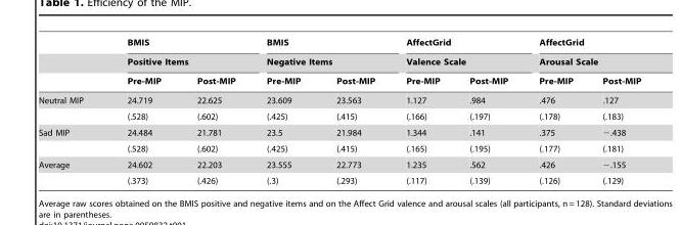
<table><thead><tr><td rowspan="3"></td><td rowspan="2" colspan="2">BMIS Positive Items</td><td rowspan="2" colspan="2">BMIS Negative Items</td><td rowspan="2" colspan="2">AffectGrid Valence Scale</td><td rowspan="2" colspan="2">AffectGrid Arousal Scale</td></tr><tr></tr><tr><td>Pre-MIP</td><td>Post-MIP</td><td>Pre-MIP</td><td>Post-MIP</td><td>Pre-MIP</td><td>Post-MIP</td><td>Pre-MIP</td><td>Post-MIP</td></tr></thead><tbody><tr><td rowspan="2">Neutral MIP</td><td>24.719</td><td>22.625</td><td>23.609</td><td>23.563</td><td>1.127</td><td>.984</td><td>.476</td><td>.127</td></tr><tr><td>(.528)</td><td>(.602)</td><td>(.425)</td><td>(.415)</td><td>(.166)</td><td>(.197)</td><td>(.178)</td><td>(.183)</td></tr><tr><td rowspan="2">Sad MIP</td><td>24.484</td><td>21.781</td><td>23.5</td><td>21.984</td><td>1.344</td><td>.141</td><td>.375</td><td>−.438</td></tr><tr><td>(.528)</td><td>(.602)</td><td>(.425)</td><td>(.415)</td><td>(.165)</td><td>(.195)</td><td>(.177)</td><td>(.181)</td></tr><tr><td rowspan="2">Average</td><td>24.602</td><td>22.203</td><td>23.555</td><td>22.773</td><td>1.235</td><td>.562</td><td>.426</td><td>−.155</td></tr><tr><td>(.373)</td><td>(.426)</td><td>(.3)</td><td>(.293)</td><td>(.117)</td><td>(.139)</td><td>(.126)</td><td>(.129)</td></tr></tbody></table>